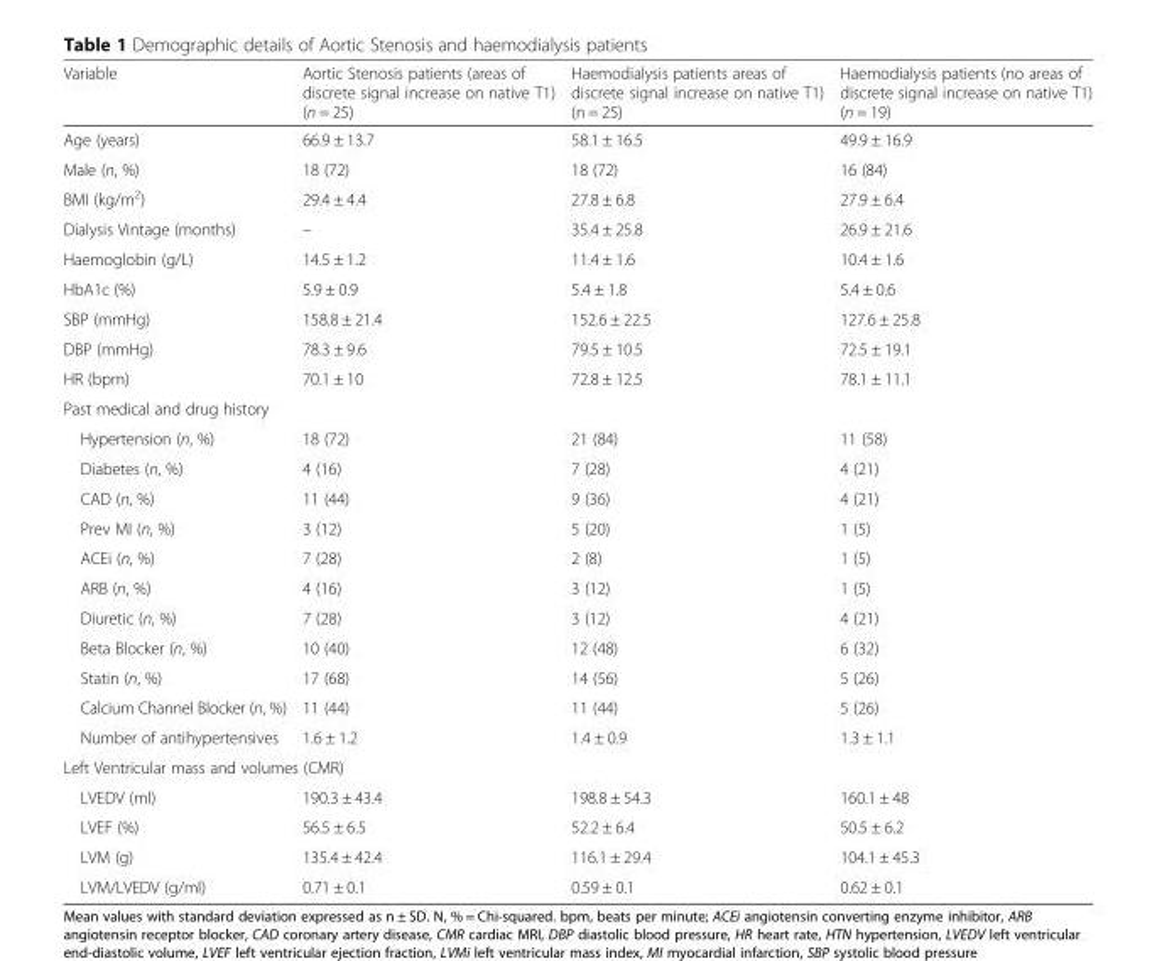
<table><thead><tr><td>Variable</td><td>Aortic Stenosis patients (areas of discrete signal increase on native T1) (n = 25)</td><td>Haemodialysis patients areas of discrete signal increase on native T1) (n = 25)</td><td>Haemodialysis patients (no areas of discrete signal increase on native T1) (n = 19)</td></tr></thead><tbody><tr><td>Age (years)</td><td>66.9 ± 13.7</td><td>58.1 ± 16.5</td><td>49.9 ± 16.9</td></tr><tr><td>Male (n, %)</td><td>18 (72)</td><td>18 (72)</td><td>16 (84)</td></tr><tr><td>BMI (kg/m<sup>2</sup>)</td><td>29.4 ± 4.4</td><td>27.8 ± 6.8</td><td>27.9 ± 6.4</td></tr><tr><td>Dialysis Vintage (months)</td><td>–</td><td>35.4 ± 25.8</td><td>26.9 ± 21.6</td></tr><tr><td>Haemoglobin (g/L)</td><td>14.5 ± 1.2</td><td>11.4 ± 1.6</td><td>10.4 ± 1.6</td></tr><tr><td>HbA1c (%)</td><td>5.9 ± 0.9</td><td>5.4 ± 1.8</td><td>5.4 ± 0.6</td></tr><tr><td>SBP (mmHg)</td><td>158.8 ± 21.4</td><td>152.6 ± 22.5</td><td>127.6 ± 25.8</td></tr><tr><td>DBP (mmHg)</td><td>78.3 ± 9.6</td><td>79.5 ± 10.5</td><td>72.5 ± 19.1</td></tr><tr><td>HR (bpm)</td><td>70.1 ± 10</td><td>72.8 ± 12.5</td><td>78.1 ± 11.1</td></tr><tr><td colspan="4">Past medical and drug history</td></tr><tr><td>Hypertension (n, %)</td><td>18 (72)</td><td>21 (84)</td><td>11 (58)</td></tr><tr><td>Diabetes (n, %)</td><td>4 (16)</td><td>7 (28)</td><td>4 (21)</td></tr><tr><td>CAD (n, %)</td><td>11 (44)</td><td>9 (36)</td><td>4 (21)</td></tr><tr><td>Prev MI (n, %)</td><td>3 (12)</td><td>5 (20)</td><td>1 (5)</td></tr><tr><td>ACEi (n, %)</td><td>7 (28)</td><td>2 (8)</td><td>1 (5)</td></tr><tr><td>ARB (n, %)</td><td>4 (16)</td><td>3 (12)</td><td>1 (5)</td></tr><tr><td>Diuretic (n, %)</td><td>7 (28)</td><td>3 (12)</td><td>4 (21)</td></tr><tr><td>Beta Blocker (n, %)</td><td>10 (40)</td><td>12 (48)</td><td>6 (32)</td></tr><tr><td>Statin (n, %)</td><td>17 (68)</td><td>14 (56)</td><td>5 (26)</td></tr><tr><td>Calcium Channel Blocker (n, %)</td><td>11 (44)</td><td>11 (44)</td><td>5 (26)</td></tr><tr><td>Number of antihypertensives</td><td>1.6 ± 1.2</td><td>1.4 ± 0.9</td><td>1.3 ± 1.1</td></tr><tr><td colspan="4">Left Ventricular mass and volumes (CMR)</td></tr><tr><td>LVEDV (ml)</td><td>190.3 ± 43.4</td><td>198.8 ± 54.3</td><td>160.1 ± 48</td></tr><tr><td>LVEF (%)</td><td>56.5 ± 6.5</td><td>52.2 ± 6.4</td><td>50.5 ± 6.2</td></tr><tr><td>LVM (g)</td><td>135.4 ± 42.4</td><td>116.1 ± 29.4</td><td>104.1 ± 45.3</td></tr><tr><td>LVM/LVEDV (g/ml)</td><td>0.71 ± 0.1</td><td>0.59 ± 0.1</td><td>0.62 ± 0.1</td></tr></tbody></table>